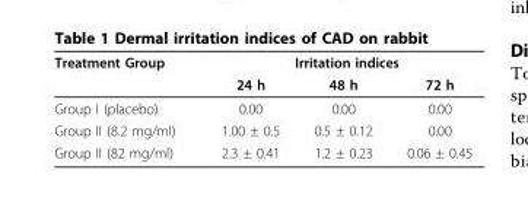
<table><thead><tr><td rowspan="2">Treatment Group</td><td colspan="3">Irritation indices</td></tr><tr><td>24 h</td><td>48 h</td><td>72 h</td></tr></thead><tbody><tr><td>Group I (placebo)</td><td>0.00</td><td>0.00</td><td>0.00</td></tr><tr><td>Group II (8.2 mg/ml)</td><td>1.00 ± 0.5</td><td>0.5 ± 0.12</td><td>0.00</td></tr><tr><td>Group II (82 mg/ml)</td><td>2.3 ± 0.41</td><td>1.2 ± 0.23</td><td>0.06 ± 0.45</td></tr></tbody></table>